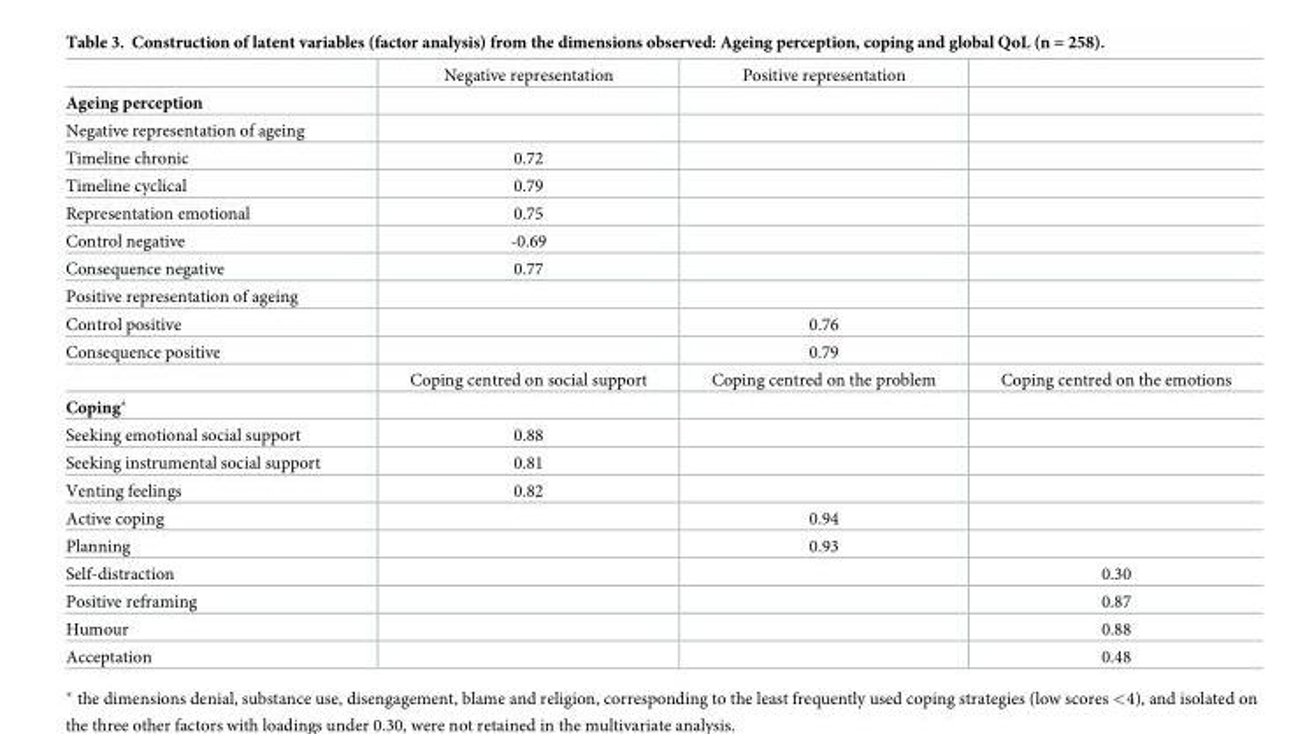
<table><thead><tr><td></td><td>Negative representation</td><td>Positive representation</td><td></td></tr></thead><tbody><tr><td colspan="4">Ageing perception</td></tr><tr><td colspan="4">Negative representation of ageing</td></tr><tr><td>Timeline chronic</td><td>0.72</td><td></td><td></td></tr><tr><td>Timeline cyclical</td><td>0.79</td><td></td><td></td></tr><tr><td>Representation emotional</td><td>0.75</td><td></td><td></td></tr><tr><td>Control negative</td><td>-0.69</td><td></td><td></td></tr><tr><td>Consequence negative</td><td>0.77</td><td></td><td></td></tr><tr><td colspan="4">Positive representation of ageing</td></tr><tr><td>Control positive</td><td></td><td>0.76</td><td></td></tr><tr><td rowspan="2">Consequence positive</td><td></td><td>0.79</td><td></td></tr><tr><td>Coping centred on social support</td><td>Coping centred on the problem</td><td>Coping centred on the emotions</td></tr><tr><td colspan="4">Coping*</td></tr><tr><td>Seeking emotional social support</td><td>0.88</td><td></td><td></td></tr><tr><td>Seeking instrumental social support</td><td>0.81</td><td></td><td></td></tr><tr><td>Venting feelings</td><td>0.82</td><td></td><td></td></tr><tr><td>Active coping</td><td></td><td>0.94</td><td></td></tr><tr><td>Planning</td><td></td><td>0.93</td><td></td></tr><tr><td>Self-distraction</td><td></td><td></td><td>0.30</td></tr><tr><td>Positive reframing</td><td></td><td></td><td>0.87</td></tr><tr><td>Humour</td><td></td><td></td><td>0.88</td></tr><tr><td>Acceptation</td><td></td><td></td><td>0.48</td></tr></tbody></table>